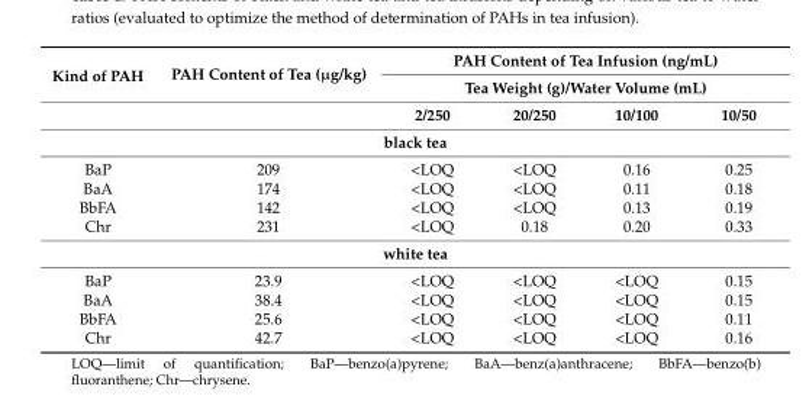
<table><thead><tr><td rowspan="3">Kind of PAH</td><td rowspan="3">PAH Content of Tea (µg/kg)</td><td rowspan="2" colspan="4">PAH Content of Tea Infusion (ng/mL) Tea Weight (g)/Water Volume (mL)</td></tr><tr></tr><tr><td>2/250</td><td>20/250</td><td>10/100</td><td>10/50</td></tr></thead><tbody><tr><td colspan="6">black tea</td></tr><tr><td>BaP</td><td>209</td><td>&lt;LOQ</td><td>&lt;LOQ</td><td>0.16</td><td>0.25</td></tr><tr><td>BaA</td><td>174</td><td>&lt;LOQ</td><td>&lt;LOQ</td><td>0.11</td><td>0.18</td></tr><tr><td>BbFA</td><td>142</td><td>&lt;LOQ</td><td>&lt;LOQ</td><td>0.13</td><td>0.19</td></tr><tr><td>Chr</td><td>231</td><td>&lt;LOQ</td><td>0.18</td><td>0.20</td><td>0.33</td></tr><tr><td colspan="6">white tea</td></tr><tr><td>BaP</td><td>23.9</td><td>&lt;LOQ</td><td>&lt;LOQ</td><td>&lt;LOQ</td><td>0.15</td></tr><tr><td>BaA</td><td>38.4</td><td>&lt;LOQ</td><td>&lt;LOQ</td><td>&lt;LOQ</td><td>0.15</td></tr><tr><td>BbFA</td><td>25.6</td><td>&lt;LOQ</td><td>&lt;LOQ</td><td>&lt;LOQ</td><td>0.11</td></tr><tr><td>Chr</td><td>42.7</td><td>&lt;LOQ</td><td>&lt;LOQ</td><td>&lt;LOQ</td><td>0.16</td></tr></tbody></table>